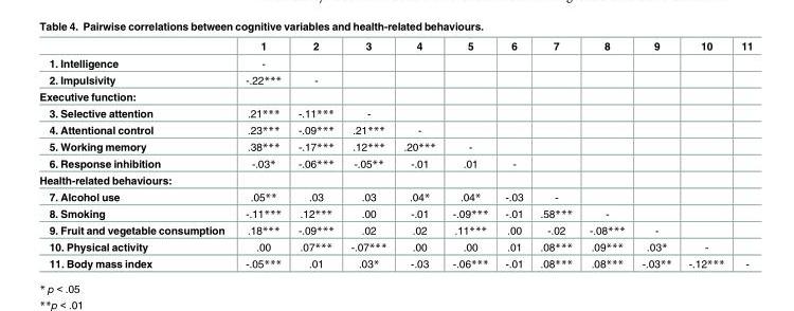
<table><thead><tr><td></td><td>1</td><td>2</td><td>3</td><td>4</td><td>5</td><td>6</td><td>7</td><td>8</td><td>9</td><td>10</td><td>11</td></tr></thead><tbody><tr><td>1. Intelligence</td><td>-</td><td></td><td></td><td></td><td></td><td></td><td></td><td></td><td></td><td></td><td></td></tr><tr><td>2. Impulsivity</td><td>-.22***</td><td>-</td><td></td><td></td><td></td><td></td><td></td><td></td><td></td><td></td><td></td></tr><tr><td colspan="12">Executive function:</td></tr><tr><td>3. Selective attention</td><td>.21***</td><td>-.11***</td><td>-</td><td></td><td></td><td></td><td></td><td></td><td></td><td></td><td></td></tr><tr><td>4. Attentional control</td><td>.23***</td><td>-.09***</td><td>.21***</td><td>-</td><td></td><td></td><td></td><td></td><td></td><td></td><td></td></tr><tr><td>5. Working memory</td><td>.38***</td><td>-.17***</td><td>.12***</td><td>.20***</td><td>-</td><td></td><td></td><td></td><td></td><td></td><td></td></tr><tr><td>6. Response inhibition</td><td>-.03*</td><td>-.06***</td><td>-.05**</td><td>-.01</td><td>.01</td><td>-</td><td></td><td></td><td></td><td></td><td></td></tr><tr><td colspan="12">Health-related behaviours:</td></tr><tr><td>7. Alcohol use</td><td>.05**</td><td>.03</td><td>.03</td><td>.04*</td><td>.04*</td><td>-.03</td><td>-</td><td></td><td></td><td></td><td></td></tr><tr><td>8. Smoking</td><td>-.11***</td><td>.12***</td><td>.00</td><td>-.01</td><td>-.09***</td><td>-.01</td><td>.58***</td><td>-</td><td></td><td></td><td></td></tr><tr><td>9. Fruit and vegetable consumption</td><td>.18***</td><td>-.09***</td><td>.02</td><td>.02</td><td>.11***</td><td>.00</td><td>-.02</td><td>-.08***</td><td>-</td><td></td><td></td></tr><tr><td>10. Physical activity</td><td>.00</td><td>.07***</td><td>-.07***</td><td>.00</td><td>.00</td><td>.01</td><td>.08***</td><td>.09***</td><td>.03*</td><td>-</td><td></td></tr><tr><td>11. Body mass index</td><td>-.05***</td><td>.01</td><td>.03*</td><td>-.03</td><td>-.06***</td><td>-.01</td><td>.08***</td><td>.08***</td><td>-.03**</td><td>-.12***</td><td>-</td></tr></tbody></table>